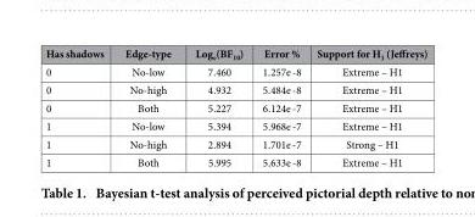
<table><thead><tr><td>Has shadows</td><td>Edge-type</td><td>Log<sub>e</sub>(BF<sub>10</sub>)</td><td>Error %</td><td>Support for H<sub>1</sub> (Jeffreys)</td></tr></thead><tbody><tr><td>0</td><td>No-low</td><td>7.460</td><td>1.257e -8</td><td>Extreme – H1</td></tr><tr><td>0</td><td>No-high</td><td>4.932</td><td>5.484e -8</td><td>Extreme – H1</td></tr><tr><td>0</td><td>Both</td><td>5.227</td><td>6.124e -7</td><td>Extreme – H1</td></tr><tr><td>1</td><td>No-low</td><td>5.394</td><td>5.968e -7</td><td>Extreme – H1</td></tr><tr><td>1</td><td>No-high</td><td>2.894</td><td>1.701e -7</td><td>Strong – H1</td></tr><tr><td>1</td><td>Both</td><td>5.995</td><td>5.633e -8</td><td>Extreme – H1</td></tr></tbody></table>